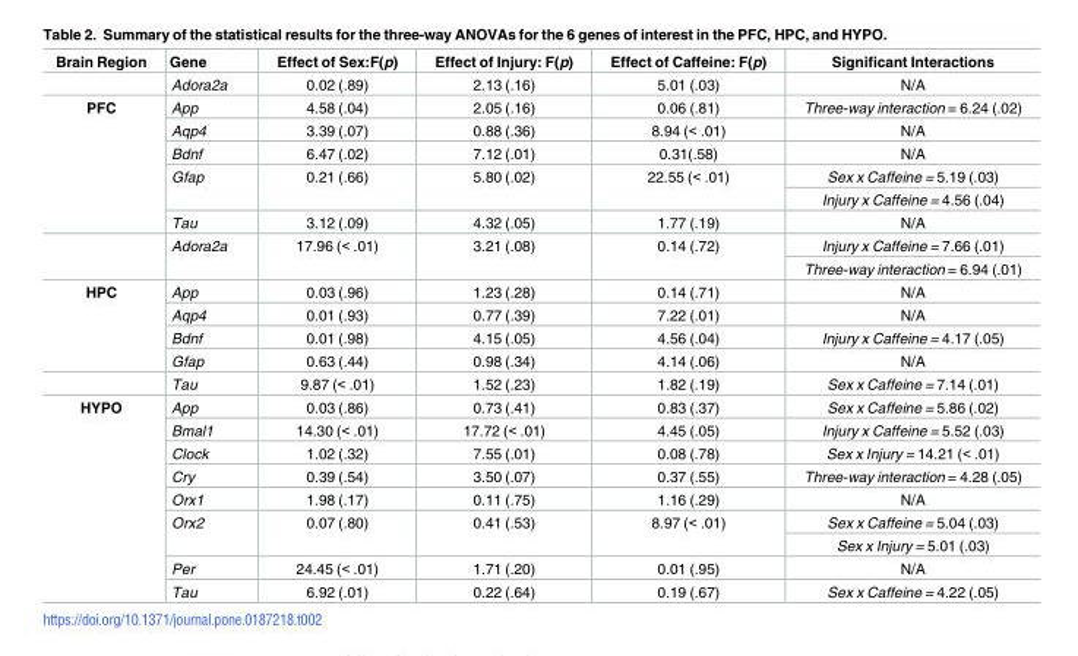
<table><thead><tr><td>Brain Region</td><td>Gene</td><td>Effect of Sex:F(p)</td><td>Effect of Injury: F(p)</td><td>Effect of Caffeine: F(p)</td><td>Significant Interactions</td></tr></thead><tbody><tr><td></td><td>Adora2a</td><td>0.02 (.89)</td><td>2.13 (.16)</td><td>5.01 (.03)</td><td>N/A</td></tr><tr><td rowspan="8">PFC</td><td>App</td><td>4.58 (.04)</td><td>2.05 (.16)</td><td>0.06 (.81)</td><td>Three-way interaction = 6.24 (.02)</td></tr><tr><td>Aqp4</td><td>3.39 (.07)</td><td>0.88 (.36)</td><td>8.94 (&lt; .01)</td><td>N/A</td></tr><tr><td>Bdnf</td><td>6.47 (.02)</td><td>7.12 (.01)</td><td>0.31(.58)</td><td>N/A</td></tr><tr><td rowspan="2">Gfap</td><td rowspan="2">0.21 (.66)</td><td rowspan="2">5.80 (.02)</td><td rowspan="2">22.55 (&lt; .01)</td><td>Sex x Caffeine = 5.19 (.03)</td></tr><tr><td>Injury x Caffeine = 4.56 (.04)</td></tr><tr><td>Tau</td><td>3.12 (.09)</td><td>4.32 (.05)</td><td>1.77 (.19)</td><td>N/A</td></tr><tr><td rowspan="2">Adora2a</td><td rowspan="2">17.96 (&lt; .01)</td><td rowspan="2">3.21 (.08)</td><td rowspan="2">0.14 (.72)</td><td>Injury x Caffeine = 7.66 (.01)</td></tr><tr><td>Three-way interaction = 6.94 (.01)</td></tr><tr><td rowspan="5">HPC</td><td>App</td><td>0.03 (.96)</td><td>1.23 (.28)</td><td>0.14 (.71)</td><td>N/A</td></tr><tr><td>Aqp4</td><td>0.01 (.93)</td><td>0.77 (.39)</td><td>7.22 (.01)</td><td>N/A</td></tr><tr><td>Bdnf</td><td>0.01 (.98)</td><td>4.15 (.05)</td><td>4.56 (.04)</td><td>Injury x Caffeine = 4.17 (.05)</td></tr><tr><td>Gfap</td><td>0.63 (.44)</td><td>0.98 (.34)</td><td>4.14 (.06)</td><td>N/A</td></tr><tr><td>Tau</td><td>9.87 (&lt; .01)</td><td>1.52 (.23)</td><td>1.82 (.19)</td><td>Sex x Caffeine = 7.14 (.01)</td></tr><tr><td rowspan="9">HYPO</td><td>App</td><td>0.03 (.86)</td><td>0.73 (.41)</td><td>0.83 (.37)</td><td>Sex x Caffeine = 5.86 (.02)</td></tr><tr><td>Bmal1</td><td>14.30 (&lt; .01)</td><td>17.72 (&lt; .01)</td><td>4.45 (.05)</td><td>Injury x Caffeine = 5.52 (.03)</td></tr><tr><td>Clock</td><td>1.02 (.32)</td><td>7.55 (.01)</td><td>0.08 (.78)</td><td>Sex x Injury = 14.21 (&lt; .01)</td></tr><tr><td>Cry</td><td>0.39 (.54)</td><td>3.50 (.07)</td><td>0.37 (.55)</td><td>Three-way interaction = 4.28 (.05)</td></tr><tr><td>Orx1</td><td>1.98 (.17)</td><td>0.11 (.75)</td><td>1.16 (.29)</td><td>N/A</td></tr><tr><td rowspan="2">Orx2</td><td rowspan="2">0.07 (.80)</td><td rowspan="2">0.41 (.53)</td><td rowspan="2">8.97 (&lt; .01)</td><td>Sex x Caffeine = 5.04 (.03)</td></tr><tr><td>Sex x Injury = 5.01 (.03)</td></tr><tr><td>Per</td><td>24.45 (&lt; .01)</td><td>1.71 (.20)</td><td>0.01 (.95)</td><td>N/A</td></tr><tr><td>Tau</td><td>6.92 (.01)</td><td>0.22 (.64)</td><td>0.19 (.67)</td><td>Sex x Caffeine = 4.22 (.05)</td></tr></tbody></table>